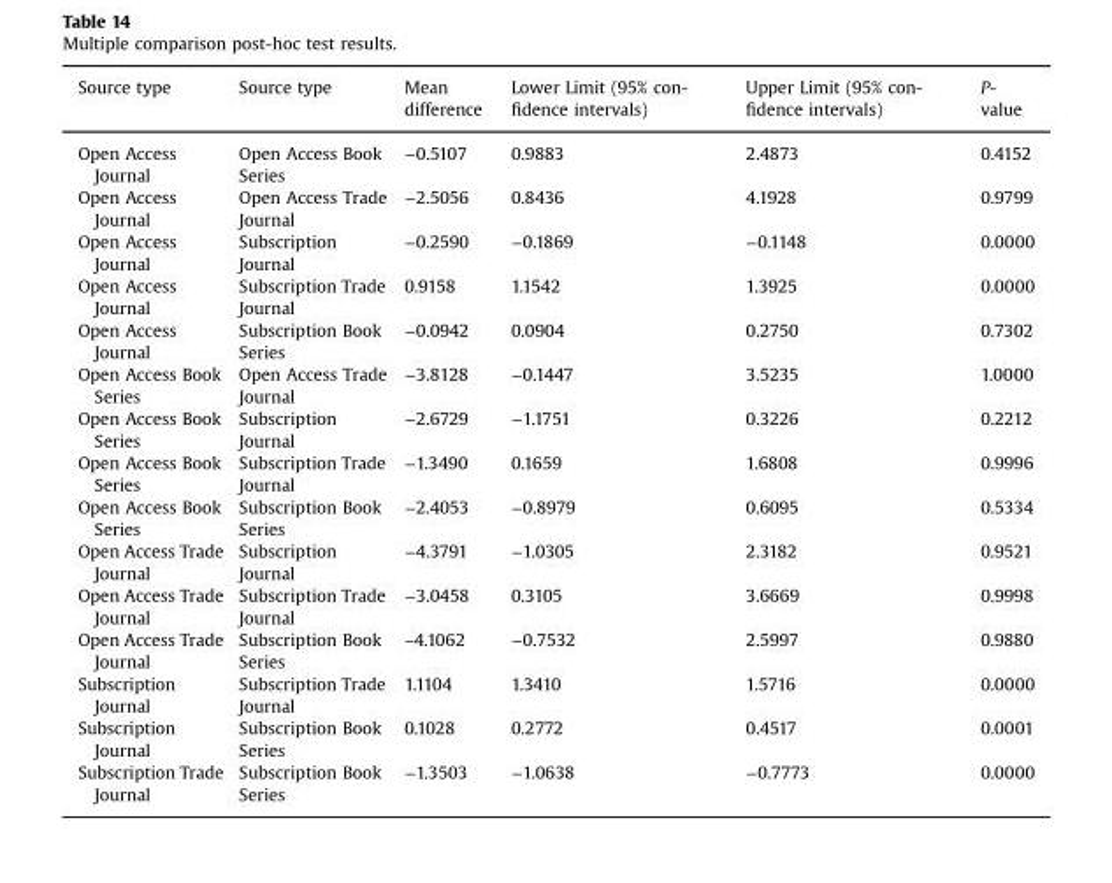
<table><thead><tr><td>Source type</td><td>Source type</td><td>Mean difference</td><td>Lower Limit (95% con- fidence intervals)</td><td>Upper Limit (95% con- fidence intervals)</td><td>P- value</td></tr></thead><tbody><tr><td>Open Access Journal</td><td>Open Access Book Series</td><td>−0.5107</td><td>0.9883</td><td>2.4873</td><td>0.4152</td></tr><tr><td>Open Access Journal</td><td>Open Access Trade Journal</td><td>−2.5056</td><td>0.8436</td><td>4.1928</td><td>0.9799</td></tr><tr><td>Open Access Journal</td><td>Subscription Journal</td><td>−0.2590</td><td>−0.1869</td><td>−0.1148</td><td>0.0000</td></tr><tr><td>Open Access Journal</td><td>Subscription Trade Journal</td><td>0.9158</td><td>1.1542</td><td>1.3925</td><td>0.0000</td></tr><tr><td>Open Access Journal</td><td>Subscription Book Series</td><td>−0.0942</td><td>0.0904</td><td>0.2750</td><td>0.7302</td></tr><tr><td>Open Access Book Series</td><td>Open Access Trade Journal</td><td>−3.8128</td><td>−0.1447</td><td>3.5235</td><td>1.0000</td></tr><tr><td>Open Access Book Series</td><td>Subscription Journal</td><td>−2.6729</td><td>−1.1751</td><td>0.3226</td><td>0.2212</td></tr><tr><td>Open Access Book Series</td><td>Subscription Trade Journal</td><td>−1.3490</td><td>0.1659</td><td>1.6808</td><td>0.9996</td></tr><tr><td>Open Access Book Series</td><td>Subscription Book Series</td><td>−2.4053</td><td>−0.8979</td><td>0.6095</td><td>0.5334</td></tr><tr><td>Open Access Trade Journal</td><td>Subscription Journal</td><td>−4.3791</td><td>−1.0305</td><td>2.3182</td><td>0.9521</td></tr><tr><td>Open Access Trade Journal</td><td>Subscription Trade Journal</td><td>−3.0458</td><td>0.3105</td><td>3.6669</td><td>0.9998</td></tr><tr><td>Open Access Trade Journal</td><td>Subscription Book Series</td><td>–4.1062</td><td>−0.7532</td><td>2.5997</td><td>0.9880</td></tr><tr><td>Subscription Journal</td><td>Subscription Trade Journal</td><td>1.1104</td><td>1.3410</td><td>1.5716</td><td>0.0000</td></tr><tr><td>Subscription Journal</td><td>Subscription Book Series</td><td>0.1028</td><td>0.2772</td><td>0.4517</td><td>0.0001</td></tr><tr><td>Subscription Trade Journal</td><td>Subscription Book Series</td><td>−1.3503</td><td>−1.0638</td><td>−0.7773</td><td>0.0000</td></tr></tbody></table>